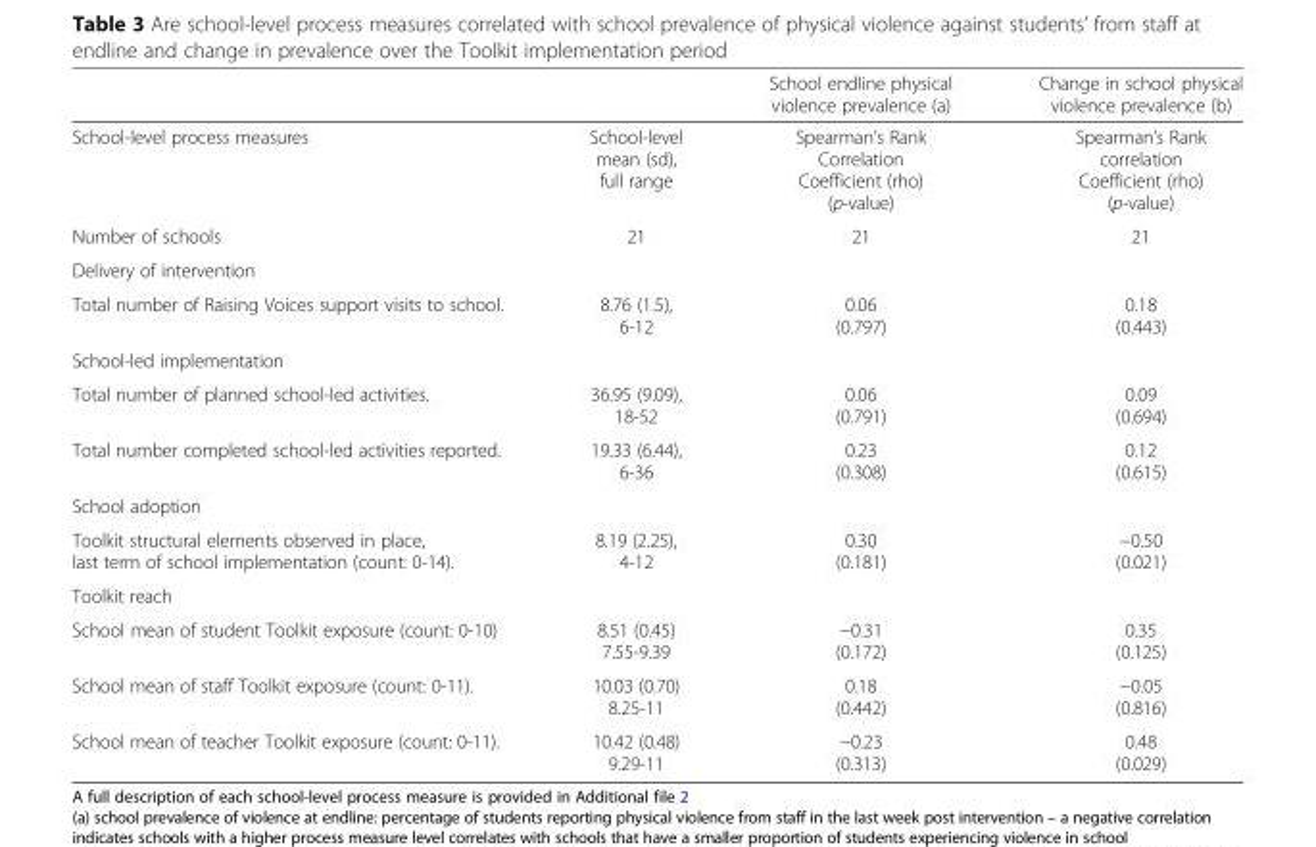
<table><thead><tr><td></td><td></td><td>School endline physical violence prevalence (a)</td><td>Change in school physical violence prevalence (b)</td></tr></thead><tbody><tr><td>School-level process measures</td><td>School-level mean (sd), full range</td><td>Spearman’s Rank Correlation Coefficient (rho) (p-value)</td><td>Spearman’s Rank correlation Coefficient (rho) (p-value)</td></tr><tr><td>Number of schools</td><td>21</td><td>21</td><td>21</td></tr><tr><td colspan="4">Delivery of intervention</td></tr><tr><td>Total number of Raising Voices support visits to school.</td><td>8.76 (1.5), 6-12</td><td>0.06 (0.797)</td><td>0.18 (0.443)</td></tr><tr><td colspan="4">School-led implementation</td></tr><tr><td>Total number of planned school-led activities.</td><td>36.95 (9.09), 18-52</td><td>0.06 (0.791)</td><td>0.09 (0.694)</td></tr><tr><td>Total number completed school-led activities reported.</td><td>19.33 (6.44), 6-36</td><td>0.23 (0.308)</td><td>0.12 (0.615)</td></tr><tr><td colspan="4">School adoption</td></tr><tr><td>Toolkit structural elements observed in place, last term of school implementation (count: 0-14).</td><td>8.19 (2.25), 4-12</td><td>0.30 (0.181)</td><td>−0.50 (0.021)</td></tr><tr><td colspan="4">Toolkit reach</td></tr><tr><td>School mean of student Toolkit exposure (count: 0-10)</td><td>8.51 (0.45) 7.55-9.39</td><td>−0.31 (0.172)</td><td>0.35 (0.125)</td></tr><tr><td>School mean of staff Toolkit exposure (count: 0-11).</td><td>10.03 (0.70) 8.25-11</td><td>0.18 (0.442)</td><td>−0.05 (0.816)</td></tr><tr><td>School mean of teacher Toolkit exposure (count: 0-11).</td><td>10.42 (0.48) 9.29-11</td><td>−0.23 (0.313)</td><td>0.48 (0.029)</td></tr></tbody></table>